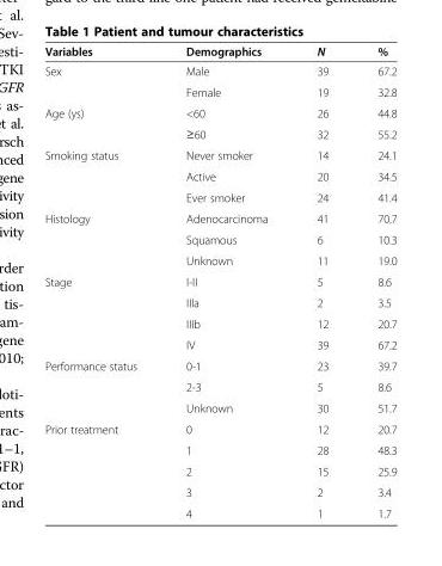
<table><thead><tr><td>Variables</td><td>Demographics</td><td>N</td><td>%</td></tr></thead><tbody><tr><td rowspan="2">Sex</td><td>Male</td><td>39</td><td>67.2</td></tr><tr><td>Female</td><td>19</td><td>32.8</td></tr><tr><td rowspan="2">Age (ys)</td><td>&lt;60</td><td>26</td><td>44.8</td></tr><tr><td>≥60</td><td>32</td><td>55.2</td></tr><tr><td rowspan="3">Smoking status</td><td>Never smoker</td><td>14</td><td>24.1</td></tr><tr><td>Active</td><td>20</td><td>34.5</td></tr><tr><td>Ever smoker</td><td>24</td><td>41.4</td></tr><tr><td rowspan="3">Histology</td><td>Adenocarcinoma</td><td>41</td><td>70.7</td></tr><tr><td>Squamous</td><td>6</td><td>10.3</td></tr><tr><td>Unknown</td><td>11</td><td>19.0</td></tr><tr><td rowspan="4">Stage</td><td>I-II</td><td>5</td><td>8.6</td></tr><tr><td>IIIa</td><td>2</td><td>3.5</td></tr><tr><td>IIIb</td><td>12</td><td>20.7</td></tr><tr><td>IV</td><td>39</td><td>67.2</td></tr><tr><td rowspan="3">Performance status</td><td>0-1</td><td>23</td><td>39.7</td></tr><tr><td>2-3</td><td>5</td><td>8.6</td></tr><tr><td>Unknown</td><td>30</td><td>51.7</td></tr><tr><td rowspan="5">Prior treatment</td><td>0</td><td>12</td><td>20.7</td></tr><tr><td>1</td><td>28</td><td>48.3</td></tr><tr><td>2</td><td>15</td><td>25.9</td></tr><tr><td>3</td><td>2</td><td>3.4</td></tr><tr><td>4</td><td>1</td><td>1.7</td></tr></tbody></table>